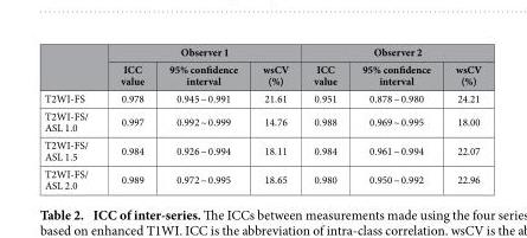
<table><thead><tr><td rowspan="2"></td><td colspan="3">Observer 1</td><td colspan="3">Observer 2</td></tr><tr><td>ICC value</td><td>95% confidence interval</td><td>wsCV (%)</td><td>ICC value</td><td>95% confidence interval</td><td>wsCV (%)</td></tr></thead><tbody><tr><td>T2WI-FS</td><td>0.978</td><td>0.945 ~ 0.991</td><td>21.61</td><td>0.951</td><td>0.878 ~ 0.980</td><td>24.21</td></tr><tr><td>T2WI-FS/ ASL 1.0</td><td>0.997</td><td>0.992 ~ 0.999</td><td>14.76</td><td>0.988</td><td>0.969 ~ 0.995</td><td>18.00</td></tr><tr><td>T2WI-FS/ ASL 1.5</td><td>0.984</td><td>0.926 ~ 0.994</td><td>18.11</td><td>0.984</td><td>0.961 ~ 0.994</td><td>22.07</td></tr><tr><td>T2WI-FS/ ASL 2.0</td><td>0.989</td><td>0.972 ~ 0.995</td><td>18.65</td><td>0.980</td><td>0.950 ~ 0.992</td><td>22.96</td></tr></tbody></table>